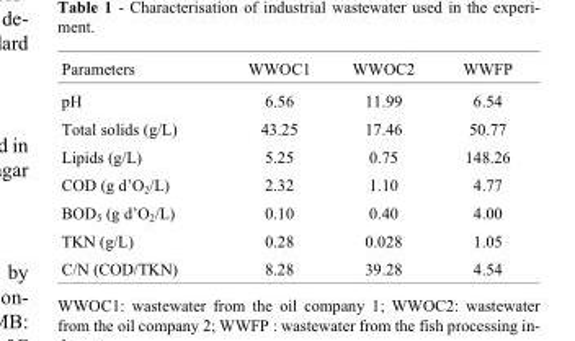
<table><thead><tr><td>Parameters</td><td>WWOC1</td><td>WWOC2</td><td>WWFP</td></tr></thead><tbody><tr><td>pH</td><td>6.56</td><td>11.99</td><td>6.54</td></tr><tr><td>Total solids (g/L)</td><td>43.25</td><td>17.46</td><td>50.77</td></tr><tr><td>Lipids (g/L)</td><td>5.25</td><td>0.75</td><td>148.26</td></tr><tr><td>COD (g d’O<sub>2</sub>/L)</td><td>2.32</td><td>1.10</td><td>4.77</td></tr><tr><td>BOD<sub>5</sub> (g d’O<sub>2</sub>/L)</td><td>0.10</td><td>0.40</td><td>4.00</td></tr><tr><td>TKN (g/L)</td><td>0.28</td><td>0.028</td><td>1.05</td></tr><tr><td>C/N (COD/TKN)</td><td>8.28</td><td>39.28</td><td>4.54</td></tr></tbody></table>